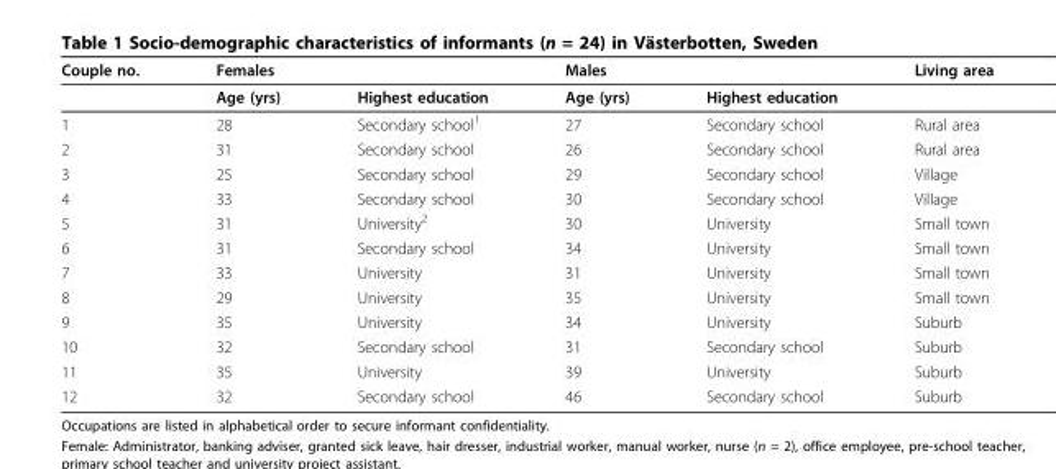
<table><thead><tr><td rowspan="2">Couple no.</td><td colspan="2">Females</td><td colspan="2">Males</td><td rowspan="2">Living area</td></tr><tr><td>Age (yrs)</td><td>Highest education</td><td>Age (yrs)</td><td>Highest education</td></tr></thead><tbody><tr><td>1</td><td>28</td><td>Secondary school<sup>1</sup></td><td>27</td><td>Secondary school</td><td>Rural area</td></tr><tr><td>2</td><td>31</td><td>Secondary school</td><td>26</td><td>Secondary school</td><td>Rural area</td></tr><tr><td>3</td><td>25</td><td>Secondary school</td><td>29</td><td>Secondary school</td><td>Village</td></tr><tr><td>4</td><td>33</td><td>Secondary school</td><td>30</td><td>Secondary school</td><td>Village</td></tr><tr><td>5</td><td>31</td><td>University<sup>2</sup></td><td>30</td><td>University</td><td>Small town</td></tr><tr><td>6</td><td>31</td><td>Secondary school</td><td>34</td><td>University</td><td>Small town</td></tr><tr><td>7</td><td>33</td><td>University</td><td>31</td><td>University</td><td>Small town</td></tr><tr><td>8</td><td>29</td><td>University</td><td>35</td><td>University</td><td>Small town</td></tr><tr><td>9</td><td>35</td><td>University</td><td>34</td><td>University</td><td>Suburb</td></tr><tr><td>10</td><td>32</td><td>Secondary school</td><td>31</td><td>Secondary school</td><td>Suburb</td></tr><tr><td>11</td><td>35</td><td>University</td><td>39</td><td>University</td><td>Suburb</td></tr><tr><td>12</td><td>32</td><td>Secondary school</td><td>46</td><td>Secondary school</td><td>Suburb</td></tr></tbody></table>